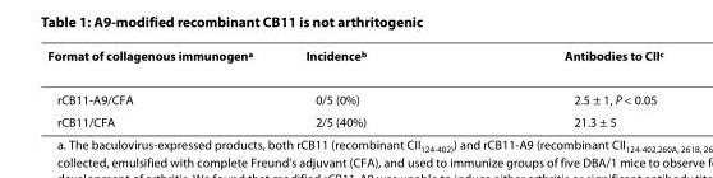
<table><thead><tr><td>Format of collagenous immunogen<sup>a</sup></td><td>Incidence<sup>b</sup></td><td>Antibodies to CII<sup>c</sup></td></tr></thead><tbody><tr><td>rCB11-A9/CFA</td><td>0/5 (0%)</td><td>2.5 ± 1, P &lt; 0.05</td></tr><tr><td>rCB11/CFA</td><td>2/5 (40%)</td><td>21.3 ± 5</td></tr></tbody></table>